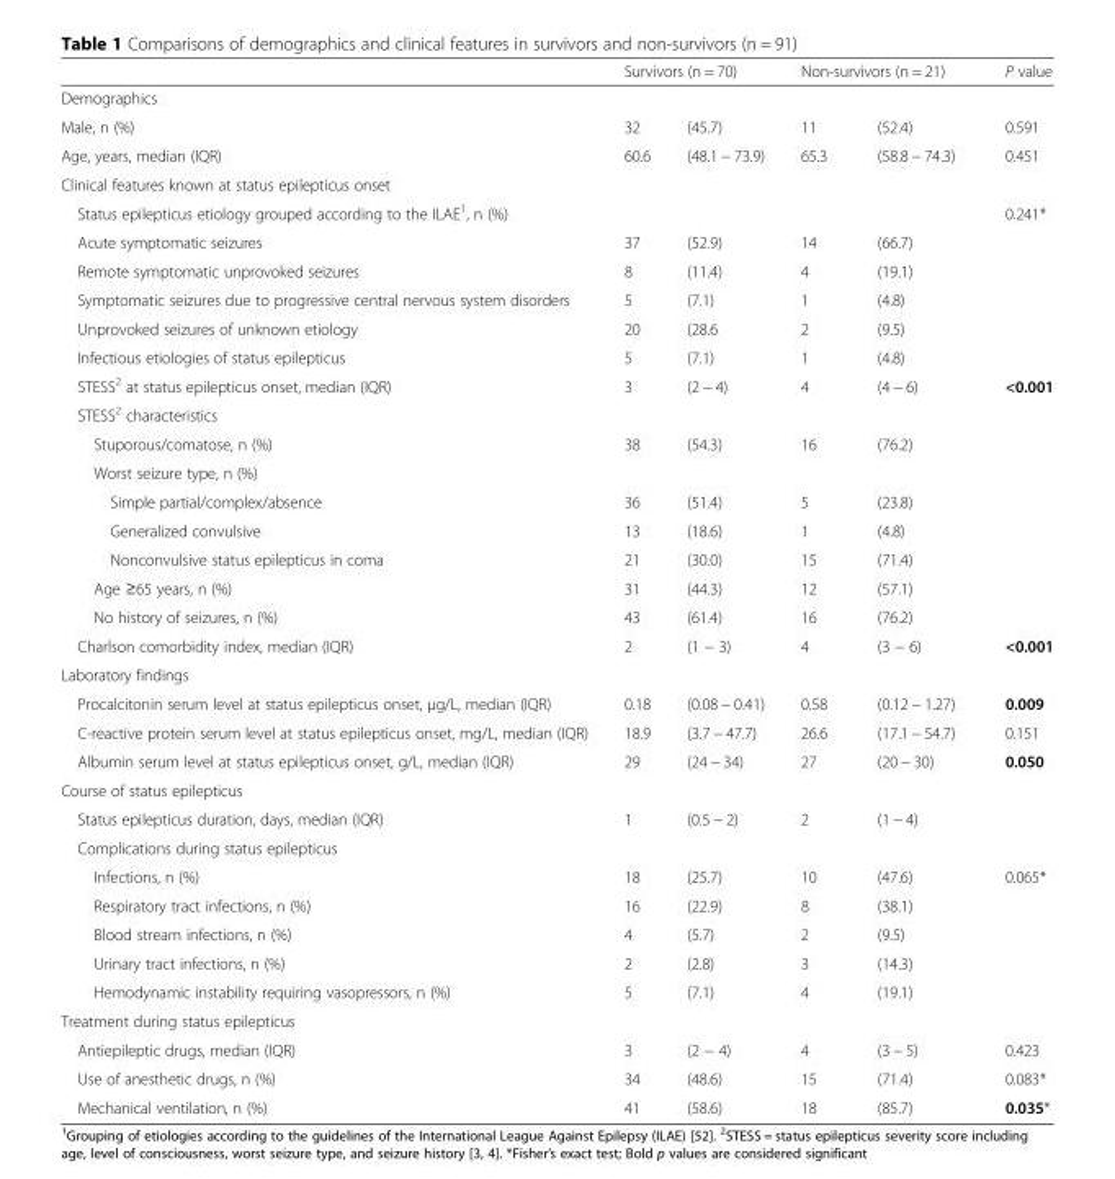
<table><thead><tr><td rowspan="2">Demographics</td><td colspan="2">Survivors (n = 70)</td><td colspan="2">Non-survivors (n = 21)</td><td rowspan="2">P value</td></tr><tr><td></td><td></td><td></td><td></td></tr></thead><tbody><tr><td>Male, n (%)</td><td>32</td><td>(45.7)</td><td>11</td><td>(52.4)</td><td>0.591</td></tr><tr><td>Age, years, median (IQR)</td><td>60.6</td><td>(48.1 − 73.9)</td><td>65.3</td><td>(58.8 − 74.3)</td><td>0.451</td></tr><tr><td colspan="6">Clinical features known at status epilepticus onset</td></tr><tr><td>Status epilepticus etiology grouped according to the ILAE1, n (%)</td><td></td><td></td><td></td><td></td><td>0.241*</td></tr><tr><td>Acute symptomatic seizures</td><td>37</td><td>(52.9)</td><td>14</td><td>(66.7)</td><td></td></tr><tr><td>Remote symptomatic unprovoked seizures</td><td>8</td><td>(11.4)</td><td>4</td><td>(19.1)</td><td></td></tr><tr><td>Symptomatic seizures due to progressive central nervous system disorders</td><td>5</td><td>(7.1)</td><td>1</td><td>(4.8)</td><td></td></tr><tr><td>Unprovoked seizures of unknown etiology</td><td>20</td><td>(28.6</td><td>2</td><td>(9.5)</td><td></td></tr><tr><td>Infectious etiologies of status epilepticus</td><td>5</td><td>(7.1)</td><td>1</td><td>(4.8)</td><td></td></tr><tr><td>STESS2 at status epilepticus onset, median (IQR)</td><td>3</td><td>(2 − 4)</td><td>4</td><td>(4 − 6)</td><td>&lt;0.001</td></tr><tr><td colspan="6">STESS2 characteristics</td></tr><tr><td>Stuporous/comatose, n (%)</td><td>38</td><td>(54.3)</td><td>16</td><td>(76.2)</td><td></td></tr><tr><td colspan="6">Worst seizure type, n (%)</td></tr><tr><td>Simple partial/complex/absence</td><td>36</td><td>(51.4)</td><td>5</td><td>(23.8)</td><td></td></tr><tr><td>Generalized convulsive</td><td>13</td><td>(18.6)</td><td>1</td><td>(4.8)</td><td></td></tr><tr><td>Nonconvulsive status epilepticus in coma</td><td>21</td><td>(30.0)</td><td>15</td><td>(71.4)</td><td></td></tr><tr><td>Age ≥65 years, n (%)</td><td>31</td><td>(44.3)</td><td>12</td><td>(57.1)</td><td></td></tr><tr><td>No history of seizures, n (%)</td><td>43</td><td>(61.4)</td><td>16</td><td>(76.2)</td><td></td></tr><tr><td>Charlson comorbidity index, median (IQR)</td><td>2</td><td>(1 − 3)</td><td>4</td><td>(3 − 6)</td><td>&lt;0.001</td></tr><tr><td colspan="6">Laboratory findings</td></tr><tr><td>Procalcitonin serum level at status epilepticus onset, μg/L, median (IQR)</td><td>0.18</td><td>(0.08 − 0.41)</td><td>0.58</td><td>(0.12 − 1.27)</td><td>0.009</td></tr><tr><td>C-reactive protein serum level at status epilepticus onset, mg/L, median (IQR)</td><td>18.9</td><td>(3.7 − 47.7)</td><td>26.6</td><td>(17.1 − 54.7)</td><td>0.151</td></tr><tr><td>Albumin serum level at status epilepticus onset, g/L, median (IQR)</td><td>29</td><td>(24 − 34)</td><td>27</td><td>(20 − 30)</td><td>0.050</td></tr><tr><td colspan="6">Course of status epilepticus</td></tr><tr><td>Status epilepticus duration, days, median (IQR)</td><td>1</td><td>(0.5 − 2)</td><td>2</td><td>(1 − 4)</td><td></td></tr><tr><td colspan="6">Complications during status epilepticus</td></tr><tr><td>Infections, n (%)</td><td>18</td><td>(25.7)</td><td>10</td><td>(47.6)</td><td>0.065*</td></tr><tr><td>Respiratory tract infections, n (%)</td><td>16</td><td>(22.9)</td><td>8</td><td>(38.1)</td><td></td></tr><tr><td>Blood stream infections, n (%)</td><td>4</td><td>(5.7)</td><td>2</td><td>(9.5)</td><td></td></tr><tr><td>Urinary tract infections, n (%)</td><td>2</td><td>(2.8)</td><td>3</td><td>(14.3)</td><td></td></tr><tr><td>Hemodynamic instability requiring vasopressors, n (%)</td><td>5</td><td>(7.1)</td><td>4</td><td>(19.1)</td><td></td></tr><tr><td colspan="6">Treatment during status epilepticus</td></tr><tr><td>Antiepileptic drugs, median (IQR)</td><td>3</td><td>(2 − 4)</td><td>4</td><td>(3 − 5)</td><td>0.423</td></tr><tr><td>Use of anesthetic drugs, n (%)</td><td>34</td><td>(48.6)</td><td>15</td><td>(71.4)</td><td>0.083*</td></tr><tr><td>Mechanical ventilation, n (%)</td><td>41</td><td>(58.6)</td><td>18</td><td>(85.7)</td><td>0.035*</td></tr></tbody></table>